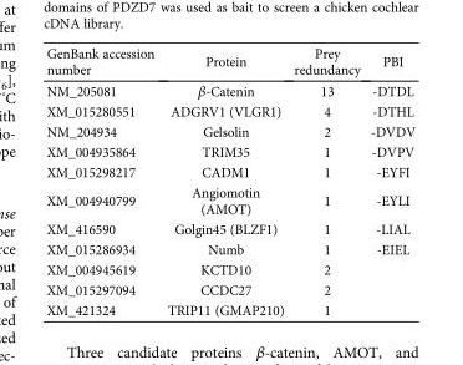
<table><thead><tr><td>GenBank accession number</td><td>Protein</td><td>Prey redundancy</td><td>PBI</td></tr></thead><tbody><tr><td>NM_205081</td><td>β-Catenin</td><td>13</td><td>-DTDL</td></tr><tr><td>XM_015280551</td><td>ADGRV1 (VLGR1)</td><td>4</td><td>-DTHL</td></tr><tr><td>NM_204934</td><td>Gelsolin</td><td>2</td><td>-DVDV</td></tr><tr><td>XM_004935864</td><td>TRIM35</td><td>1</td><td>-DVPV</td></tr><tr><td>XM_015298217</td><td>CADM1</td><td>1</td><td>-EYFI</td></tr><tr><td>XM_004940799</td><td>Angiomotin (AMOT)</td><td>1</td><td>-EYLI</td></tr><tr><td>XM_416590</td><td>Golgin45 (BLZF1)</td><td>1</td><td>-LIAL</td></tr><tr><td>XM_015286934</td><td>Numb</td><td>1</td><td>-EIEL</td></tr><tr><td>XM_004945619</td><td>KCTD10</td><td>2</td><td></td></tr><tr><td>XM_015297094</td><td>CCDC27</td><td>2</td><td></td></tr><tr><td>XM_421324</td><td>TRIP11 (GMAP210)</td><td>1</td><td></td></tr></tbody></table>